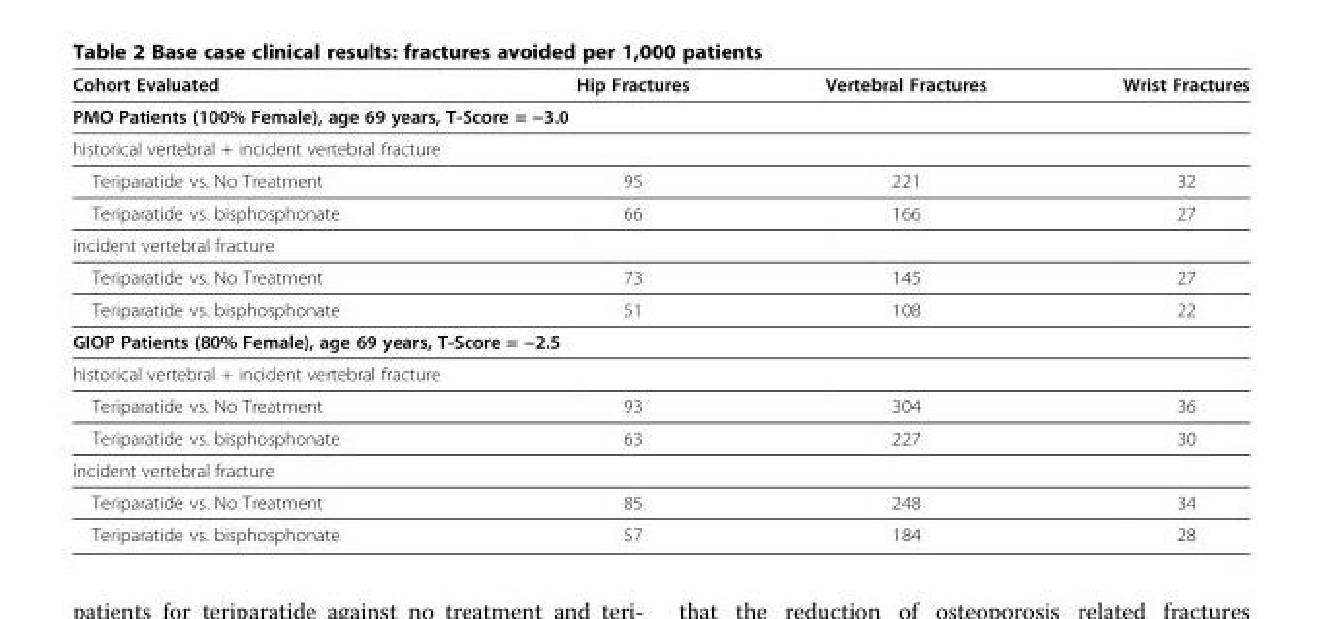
<table><thead><tr><td>Cohort Evaluated</td><td>Hip Fractures</td><td>Vertebral Fractures</td><td>Wrist Fractures</td></tr></thead><tbody><tr><td colspan="4">PMO Patients (100% Female), age 69 years, T-Score = −3.0</td></tr><tr><td colspan="4">historical vertebral + incident vertebral fracture</td></tr><tr><td>Teriparatide vs. No Treatment</td><td>95</td><td>221</td><td>32</td></tr><tr><td>Teriparatide vs. bisphosphonate</td><td>66</td><td>166</td><td>27</td></tr><tr><td colspan="4">incident vertebral fracture</td></tr><tr><td>Teriparatide vs. No Treatment</td><td>73</td><td>145</td><td>27</td></tr><tr><td>Teriparatide vs. bisphosphonate</td><td>51</td><td>108</td><td>22</td></tr><tr><td colspan="4">GIOP Patients (80% Female), age 69 years, T-Score = −2.5</td></tr><tr><td colspan="4">historical vertebral + incident vertebral fracture</td></tr><tr><td>Teriparatide vs. No Treatment</td><td>93</td><td>304</td><td>36</td></tr><tr><td>Teriparatide vs. bisphosphonate</td><td>63</td><td>227</td><td>30</td></tr><tr><td colspan="4">incident vertebral fracture</td></tr><tr><td>Teriparatide vs. No Treatment</td><td>85</td><td>248</td><td>34</td></tr><tr><td>Teriparatide vs. bisphosphonate</td><td>57</td><td>184</td><td>28</td></tr></tbody></table>